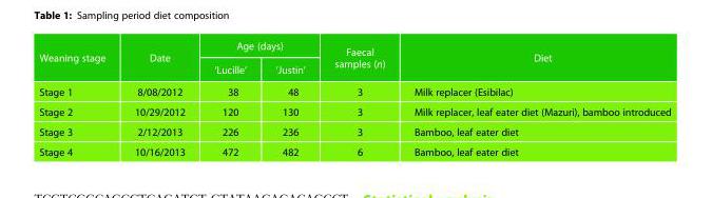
<table><thead><tr><td rowspan="2">Weaning stage</td><td rowspan="2">Date</td><td colspan="2">Age (days)</td><td rowspan="2">Faecal samples (n)</td><td rowspan="2">Diet</td></tr><tr><td>‘Lucille’</td><td>‘Justin’</td></tr></thead><tbody><tr><td>Stage 1</td><td>8/08/2012</td><td>38</td><td>48</td><td>3</td><td>Milk replacer (Esibilac)</td></tr><tr><td>Stage 2</td><td>10/29/2012</td><td>120</td><td>130</td><td>3</td><td>Milk replacer, leaf eater diet (Mazuri), bamboo introduced</td></tr><tr><td>Stage 3</td><td>2/12/2013</td><td>226</td><td>236</td><td>3</td><td>Bamboo, leaf eater diet</td></tr><tr><td>Stage 4</td><td>10/16/2013</td><td>472</td><td>482</td><td>6</td><td>Bamboo, leaf eater diet</td></tr></tbody></table>